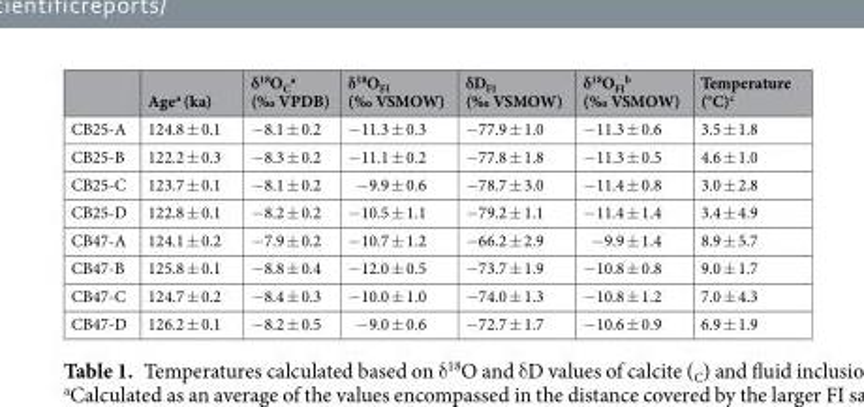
<table><thead><tr><td></td><td>Age<sup>a</sup> (ka)</td><td>δ<sup>18</sup>O<sub>C</sub> <sup>a</sup> (‰ VPDB)</td><td>δ<sup>18</sup>O<sub>FI</sub> (‰ VSMOW)</td><td>δD<sub>FI</sub> (‰ VSMOW)</td><td>δ<sup>18</sup>O<sub>FI</sub> <sup>b</sup> (‰ VSMOW)</td><td>Temperature (°C)<sup>c</sup></td></tr></thead><tbody><tr><td>CB25-A</td><td>124.8 ± 0.1</td><td>−8.1 ± 0.2</td><td>−11.3 ± 0.3</td><td>−77.9 ± 1.0</td><td>−11.3 ± 0.6</td><td>3.5 ± 1.8</td></tr><tr><td>CB25-B</td><td>122.2 ± 0.3</td><td>−8.3 ± 0.2</td><td>−11.1 ± 0.2</td><td>−77.8 ± 1.8</td><td>−11.3 ± 0.5</td><td>4.6 ± 1.0</td></tr><tr><td>CB25-C</td><td>123.7 ± 0.1</td><td>−8.1 ± 0.2</td><td>−9.9 ± 0.6</td><td>−78.7 ± 3.0</td><td>−11.4 ± 0.8</td><td>3.0 ± 2.8</td></tr><tr><td>CB25-D</td><td>122.8 ± 0.1</td><td>−8.2 ± 0.2</td><td>−10.5 ± 1.1</td><td>−79.2 ± 1.1</td><td>−11.4 ± 1.4</td><td>3.4 ± 4.9</td></tr><tr><td>CB47-A</td><td>124.1 ± 0.2</td><td>−7.9 ± 0.2</td><td>−10.7 ± 1.2</td><td>−66.2 ± 2.9</td><td>−9.9 ± 1.4</td><td>8.9 ± 5.7</td></tr><tr><td>CB47-B</td><td>125.8 ± 0.1</td><td>−8.8 ± 0.4</td><td>−12.0 ± 0.5</td><td>−73.7 ± 1.9</td><td>−10.8 ± 0.8</td><td>9.0 ± 1.7</td></tr><tr><td>CB47-C</td><td>124.7 ± 0.2</td><td>−8.4 ± 0.3</td><td>−10.0 ± 1.0</td><td>−74.0 ± 1.3</td><td>−10.8 ± 1.2</td><td>7.0 ± 4.3</td></tr><tr><td>CB47-D</td><td>126.2 ± 0.1</td><td>−8.2 ± 0.5</td><td>−9.0 ± 0.6</td><td>−72.7 ± 1.7</td><td>−10.6 ± 0.9</td><td>6.9 ± 1.9</td></tr></tbody></table>